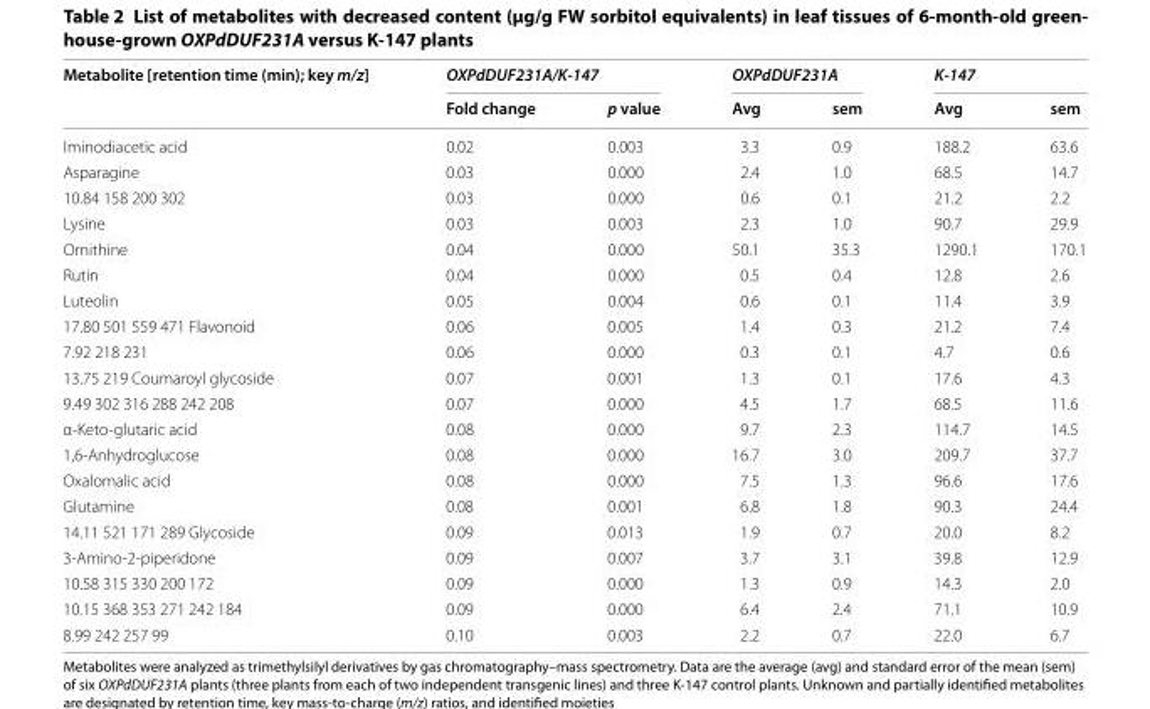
<table><thead><tr><td rowspan="2">Metabolite [retention time (min); key m/z]</td><td colspan="2">OXPdDUF231A/K-147</td><td colspan="2">OXPdDUF231A</td><td colspan="2">K-147</td></tr><tr><td>Fold change</td><td>p value</td><td>Avg</td><td>sem</td><td>Avg</td><td>sem</td></tr></thead><tbody><tr><td>Iminodiacetic acid</td><td>0.02</td><td>0.003</td><td>3.3</td><td>0.9</td><td>188.2</td><td>63.6</td></tr><tr><td>Asparagine</td><td>0.03</td><td>0.000</td><td>2.4</td><td>1.0</td><td>68.5</td><td>14.7</td></tr><tr><td>10.84 158 200 302</td><td>0.03</td><td>0.000</td><td>0.6</td><td>0.1</td><td>21.2</td><td>2.2</td></tr><tr><td>Lysine</td><td>0.03</td><td>0.003</td><td>2.3</td><td>1.0</td><td>90.7</td><td>29.9</td></tr><tr><td>Ornithine</td><td>0.04</td><td>0.000</td><td>50.1</td><td>35.3</td><td>1290.1</td><td>170.1</td></tr><tr><td>Rutin</td><td>0.04</td><td>0.000</td><td>0.5</td><td>0.4</td><td>12.8</td><td>2.6</td></tr><tr><td>Luteolin</td><td>0.05</td><td>0.004</td><td>0.6</td><td>0.1</td><td>11.4</td><td>3.9</td></tr><tr><td>17.80 501 559 471 Flavonoid</td><td>0.06</td><td>0.005</td><td>1.4</td><td>0.3</td><td>21.2</td><td>7.4</td></tr><tr><td>7.92 218 231</td><td>0.06</td><td>0.000</td><td>0.3</td><td>0.1</td><td>4.7</td><td>0.6</td></tr><tr><td>13.75 219 Coumaroyl glycoside</td><td>0.07</td><td>0.001</td><td>1.3</td><td>0.1</td><td>17.6</td><td>4.3</td></tr><tr><td>9.49 302 316 288 242 208</td><td>0.07</td><td>0.000</td><td>4.5</td><td>1.7</td><td>68.5</td><td>11.6</td></tr><tr><td>α‑Keto‑glutaric acid</td><td>0.08</td><td>0.000</td><td>9.7</td><td>2.3</td><td>114.7</td><td>14.5</td></tr><tr><td>1,6‑Anhydroglucose</td><td>0.08</td><td>0.000</td><td>16.7</td><td>3.0</td><td>209.7</td><td>37.7</td></tr><tr><td>Oxalomalic acid</td><td>0.08</td><td>0.000</td><td>7.5</td><td>1.3</td><td>96.6</td><td>17.6</td></tr><tr><td>Glutamine</td><td>0.08</td><td>0.001</td><td>6.8</td><td>1.8</td><td>90.3</td><td>24.4</td></tr><tr><td>14.11 521 171 289 Glycoside</td><td>0.09</td><td>0.013</td><td>1.9</td><td>0.7</td><td>20.0</td><td>8.2</td></tr><tr><td>3‑Amino‑2‑piperidone</td><td>0.09</td><td>0.007</td><td>3.7</td><td>3.1</td><td>39.8</td><td>12.9</td></tr><tr><td>10.58 315 330 200 172</td><td>0.09</td><td>0.000</td><td>1.3</td><td>0.9</td><td>14.3</td><td>2.0</td></tr><tr><td>10.15 368 353 271 242 184</td><td>0.09</td><td>0.000</td><td>6.4</td><td>2.4</td><td>71.1</td><td>10.9</td></tr><tr><td>8.99 242 257 99</td><td>0.10</td><td>0.003</td><td>2.2</td><td>0.7</td><td>22.0</td><td>6.7</td></tr></tbody></table>